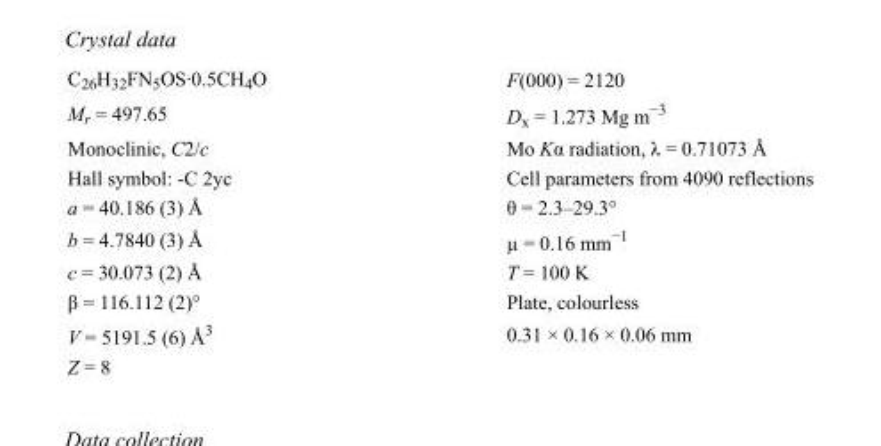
<table><tbody><tr><td>C<sub>26</sub>H<sub>32</sub>FN<sub>5</sub>OS·0.5CH<sub>4</sub>O</td><td>F(000) = 2120</td></tr><tr><td>M<sub>r</sub> = 497.65</td><td>D<sub>x</sub> = 1.273 Mg m<sup>−3</sup></td></tr><tr><td>Monoclinic, C2/c</td><td>Mo Kα radiation, λ = 0.71073 Å</td></tr><tr><td>Hall symbol: -C 2yc</td><td>Cell parameters from 4090 reflections</td></tr><tr><td>a = 40.186 (3) Å</td><td>θ = 2.3–29.3°</td></tr><tr><td>b = 4.7840 (3) Å</td><td>µ = 0.16 mm<sup>−1</sup></td></tr><tr><td>c = 30.073 (2) Å</td><td>T = 100 K</td></tr><tr><td>β = 116.112 (2)°</td><td>Plate, colourless</td></tr><tr><td>V = 5191.5 (6) Å<sup>3</sup></td><td>0.31 × 0.16 × 0.06 mm</td></tr><tr><td>Z = 8</td><td></td></tr></tbody></table>